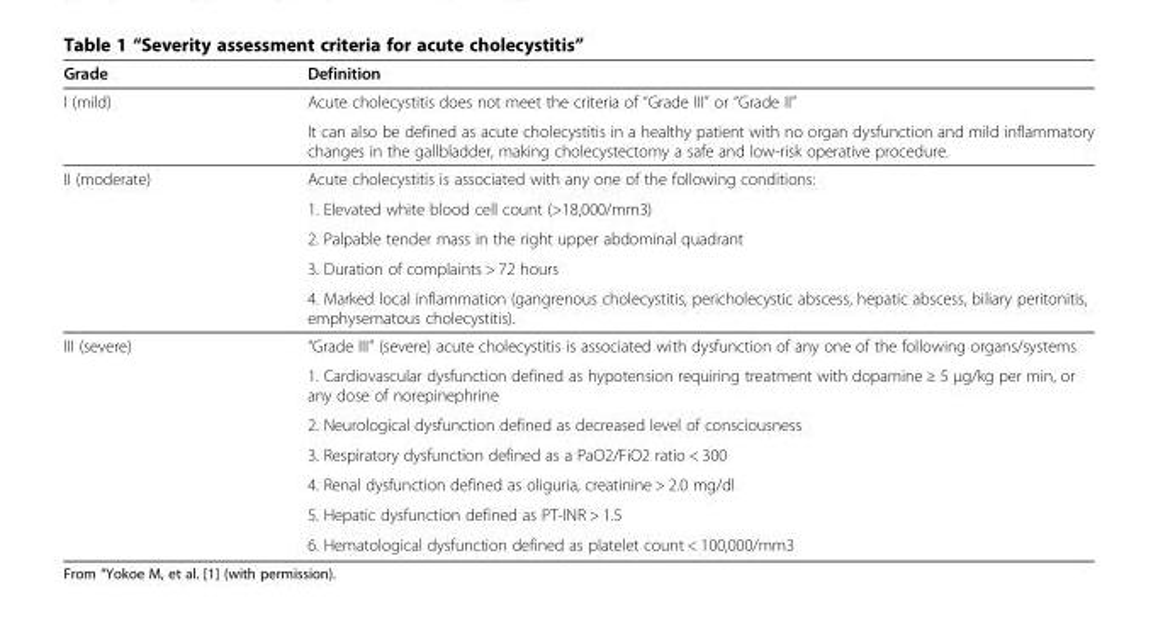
<table><thead><tr><td>Grade</td><td>Definition</td></tr></thead><tbody><tr><td rowspan="2">I (mild)</td><td>Acute cholecystitis does not meet the criteria of “Grade III” or “Grade II”</td></tr><tr><td>It can also be defined as acute cholecystitis in a healthy patient with no organ dysfunction and mild inflammatory changes in the gallbladder, making cholecystectomy a safe and low-risk operative procedure.</td></tr><tr><td rowspan="5">II (moderate)</td><td>Acute cholecystitis is associated with any one of the following conditions:</td></tr><tr><td>1. Elevated white blood cell count (&gt;18,000/mm3)</td></tr><tr><td>2. Palpable tender mass in the right upper abdominal quadrant</td></tr><tr><td>3. Duration of complaints &gt; 72 hours</td></tr><tr><td>4. Marked local inflammation (gangrenous cholecystitis, pericholecystic abscess, hepatic abscess, biliary peritonitis, emphysematous cholecystitis).</td></tr><tr><td rowspan="7">III (severe)</td><td>“Grade III” (severe) acute cholecystitis is associated with dysfunction of any one of the following organs/systems</td></tr><tr><td>1. Cardiovascular dysfunction defined as hypotension requiring treatment with dopamine ≥ 5 μg/kg per min, or any dose of norepinephrine</td></tr><tr><td>2. Neurological dysfunction defined as decreased level of consciousness</td></tr><tr><td>3. Respiratory dysfunction defined as a PaO2/FiO2 ratio &lt; 300</td></tr><tr><td>4. Renal dysfunction defined as oliguria, creatinine &gt; 2.0 mg/dl</td></tr><tr><td>5. Hepatic dysfunction defined as PT-INR &gt; 1.5</td></tr><tr><td>6. Hematological dysfunction defined as platelet count &lt; 100,000/mm3</td></tr></tbody></table>